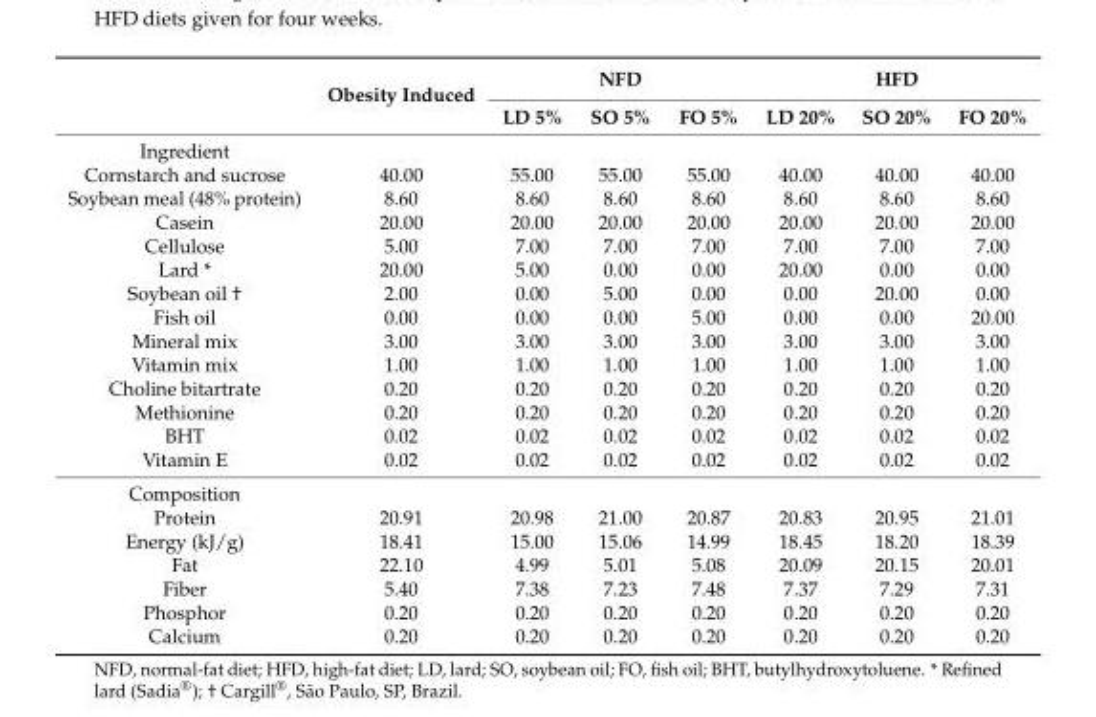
<table><thead><tr><td rowspan="2"></td><td rowspan="2">Obesity Induced</td><td colspan="3">NFD</td><td colspan="3">HFD</td></tr><tr><td>LD 5%</td><td>SO 5%</td><td>FO 5%</td><td>LD 20%</td><td>SO 20%</td><td>FO 20%</td></tr></thead><tbody><tr><td colspan="8">Ingredient</td></tr><tr><td>Cornstarch and sucrose</td><td>40.00</td><td>55.00</td><td>55.00</td><td>55.00</td><td>40.00</td><td>40.00</td><td>40.00</td></tr><tr><td>Soybean meal (48% protein)</td><td>8.60</td><td>8.60</td><td>8.60</td><td>8.60</td><td>8.60</td><td>8.60</td><td>8.60</td></tr><tr><td>Casein</td><td>20.00</td><td>20.00</td><td>20.00</td><td>20.00</td><td>20.00</td><td>20.00</td><td>20.00</td></tr><tr><td>Cellulose</td><td>5.00</td><td>7.00</td><td>7.00</td><td>7.00</td><td>7.00</td><td>7.00</td><td>7.00</td></tr><tr><td>Lard *</td><td>20.00</td><td>5.00</td><td>0.00</td><td>0.00</td><td>20.00</td><td>0.00</td><td>0.00</td></tr><tr><td>Soybean oil †</td><td>2.00</td><td>0.00</td><td>5.00</td><td>0.00</td><td>0.00</td><td>20.00</td><td>0.00</td></tr><tr><td>Fish oil</td><td>0.00</td><td>0.00</td><td>0.00</td><td>5.00</td><td>0.00</td><td>0.00</td><td>20.00</td></tr><tr><td>Mineral mix</td><td>3.00</td><td>3.00</td><td>3.00</td><td>3.00</td><td>3.00</td><td>3.00</td><td>3.00</td></tr><tr><td>Vitamin mix</td><td>1.00</td><td>1.00</td><td>1.00</td><td>1.00</td><td>1.00</td><td>1.00</td><td>1.00</td></tr><tr><td>Choline bitartrate</td><td>0.20</td><td>0.20</td><td>0.20</td><td>0.20</td><td>0.20</td><td>0.20</td><td>0.20</td></tr><tr><td>Methionine</td><td>0.20</td><td>0.20</td><td>0.20</td><td>0.20</td><td>0.20</td><td>0.20</td><td>0.20</td></tr><tr><td>BHT</td><td>0.02</td><td>0.02</td><td>0.02</td><td>0.02</td><td>0.02</td><td>0.02</td><td>0.02</td></tr><tr><td>Vitamin E</td><td>0.02</td><td>0.02</td><td>0.02</td><td>0.02</td><td>0.02</td><td>0.02</td><td>0.02</td></tr><tr><td colspan="8">Composition</td></tr><tr><td>Protein</td><td>20.91</td><td>20.98</td><td>21.00</td><td>20.87</td><td>20.83</td><td>20.95</td><td>21.01</td></tr><tr><td>Energy (kJ/g)</td><td>18.41</td><td>15.00</td><td>15.06</td><td>14.99</td><td>18.45</td><td>18.20</td><td>18.39</td></tr><tr><td>Fat</td><td>22.10</td><td>4.99</td><td>5.01</td><td>5.08</td><td>20.09</td><td>20.15</td><td>20.01</td></tr><tr><td>Fiber</td><td>5.40</td><td>7.38</td><td>7.23</td><td>7.48</td><td>7.37</td><td>7.29</td><td>7.31</td></tr><tr><td>Phosphor</td><td>0.20</td><td>0.20</td><td>0.20</td><td>0.20</td><td>0.20</td><td>0.20</td><td>0.20</td></tr><tr><td>Calcium</td><td>0.20</td><td>0.20</td><td>0.20</td><td>0.20</td><td>0.20</td><td>0.20</td><td>0.20</td></tr></tbody></table>